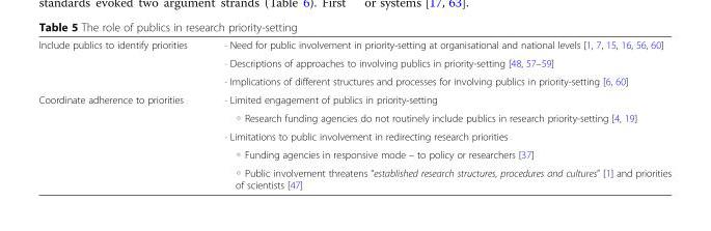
<table><tbody><tr><td rowspan="3">Include publics to identify priorities</td><td>∙ Need for public involvement in priority-setting at organisational and national levels [1, 7, 15, 16, 56, 60]</td></tr><tr><td>∙ Descriptions of approaches to involving publics in priority-setting [48, 57–59]</td></tr><tr><td>∙ Implications of different structures and processes for involving publics in priority-setting [6, 60]</td></tr><tr><td rowspan="5">Coordinate adherence to priorities</td><td>∙ Limited engagement of publics in priority-setting</td></tr><tr><td>◦ Research funding agencies do not routinely include publics in research priority-setting [4, 19]</td></tr><tr><td>∙ Limitations to public involvement in redirecting research priorities</td></tr><tr><td>◦ Funding agencies in responsive mode – to policy or researchers [37]</td></tr><tr><td>◦ Public involvement threatens “established research structures, procedures and cultures” [1] and priorities of scientists [47]</td></tr></tbody></table>